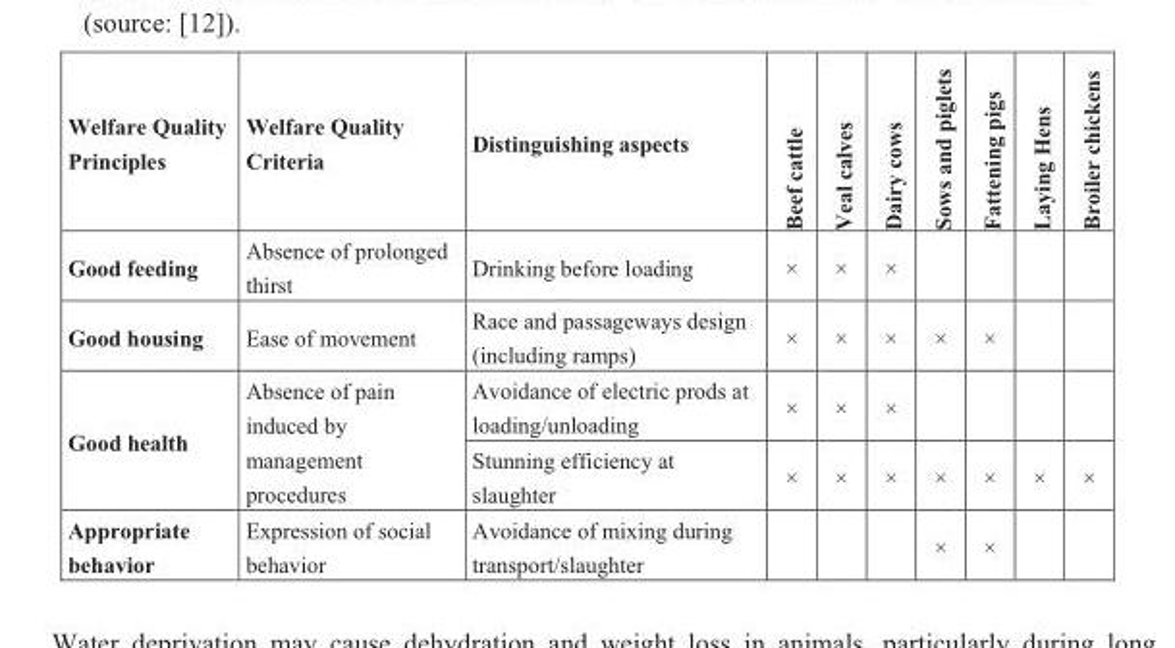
<table><thead><tr><td>Welfare Quality Principles</td><td>Welfare Quality Criteria</td><td>Distinguishing aspects</td><td>Beef cattle</td><td>Veal calves</td><td>Dairy cows</td><td>Sows and piglets</td><td>Fattening pigs</td><td>Laying Hens</td><td>Broiler chickens</td></tr></thead><tbody><tr><td>Good feeding</td><td>Absence of prolonged thirst</td><td>Drinking before loading</td><td>×</td><td>×</td><td>×</td><td></td><td></td><td></td><td></td></tr><tr><td>Good housing</td><td>Ease of movement</td><td>Race and passageways design (including ramps)</td><td>×</td><td>×</td><td>×</td><td>×</td><td>×</td><td></td><td></td></tr><tr><td rowspan="2">Good health</td><td rowspan="2">Absence of pain induced by management procedures</td><td>Avoidance of electric prods at loading/unloading</td><td>×</td><td>×</td><td>×</td><td></td><td></td><td></td><td></td></tr><tr><td>Stunning efficiency at slaughter</td><td>×</td><td>×</td><td>×</td><td>×</td><td>×</td><td>×</td><td>×</td></tr><tr><td>Appropriate behavior</td><td>Expression of social behavior</td><td>Avoidance of mixing during transport/slaughter</td><td></td><td></td><td></td><td>×</td><td>×</td><td></td><td></td></tr></tbody></table>